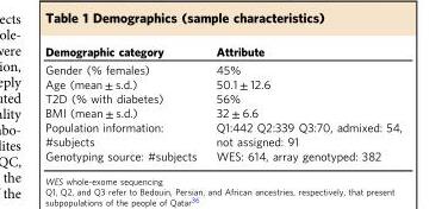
<table><thead><tr><td>Demographic category</td><td>Attribute</td></tr></thead><tbody><tr><td>Gender (% females)</td><td>45%</td></tr><tr><td>Age (mean ± s.d.)</td><td>50.1 ± 12.6</td></tr><tr><td>T2D (% with diabetes)</td><td>56%</td></tr><tr><td>BMI (mean ± s.d.)</td><td>32 ± 6.6</td></tr><tr><td>Population information: #subjects</td><td>Q1:442 Q2:339 Q3:70, admixed: 54, not assigned: 91</td></tr><tr><td>Genotyping source: #subjects</td><td>WES: 614, array genotyped: 382</td></tr></tbody></table>